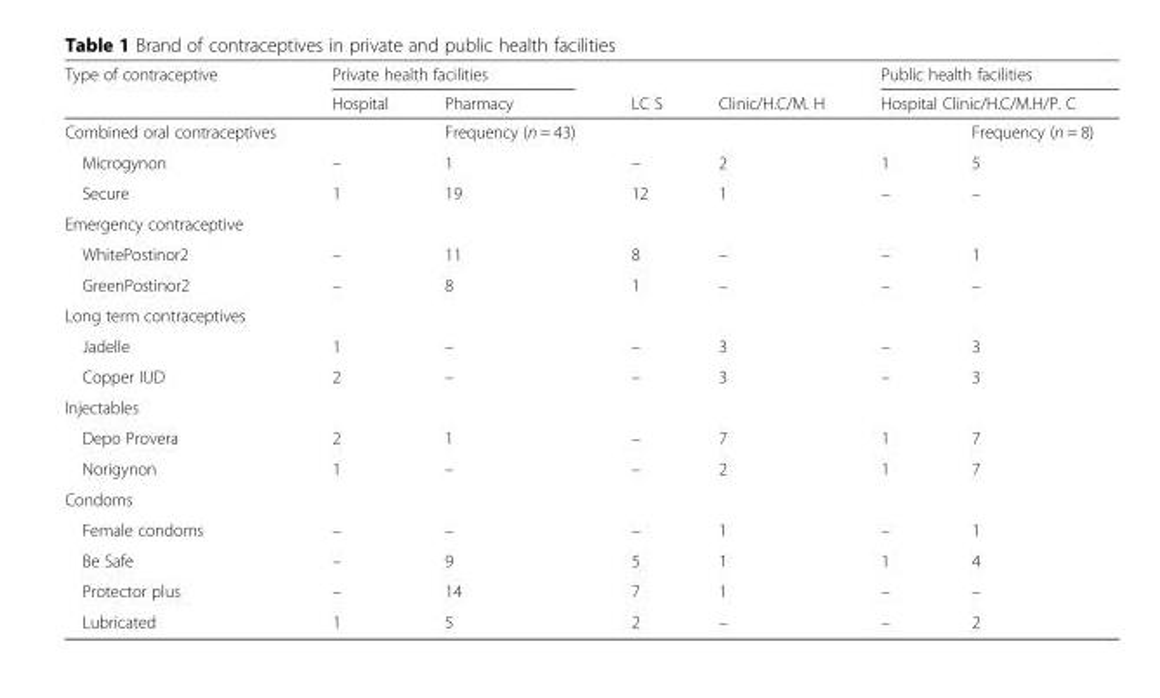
<table><thead><tr><td rowspan="3">Type of contraceptive Combined oral contraceptives</td><td colspan="2">Private health facilities</td><td rowspan="3">LC S</td><td rowspan="3">Clinic/H.C/M. H</td><td rowspan="2" colspan="2">Public health facilities Hospital Clinic/H.C/M.H/P. C</td></tr><tr><td rowspan="2">Hospital</td><td rowspan="2">Pharmacy Frequency (n = 43)</td></tr><tr><td></td><td>Frequency (n = 8)</td></tr></thead><tbody><tr><td>Microgynon</td><td>–</td><td>1</td><td>–</td><td>2</td><td>1</td><td>5</td></tr><tr><td>Secure</td><td>1</td><td>19</td><td>12</td><td>1</td><td>–</td><td>–</td></tr><tr><td colspan="7">Emergency contraceptive</td></tr><tr><td>WhitePostinor2</td><td>–</td><td>11</td><td>8</td><td>–</td><td>–</td><td>1</td></tr><tr><td>GreenPostinor2</td><td>–</td><td>8</td><td>1</td><td>–</td><td>–</td><td>–</td></tr><tr><td colspan="7">Long term contraceptives</td></tr><tr><td>Jadelle</td><td>1</td><td>–</td><td>–</td><td>3</td><td>–</td><td>3</td></tr><tr><td>Copper IUD</td><td>2</td><td>–</td><td>–</td><td>3</td><td>–</td><td>3</td></tr><tr><td colspan="7">Injectables</td></tr><tr><td>Depo Provera</td><td>2</td><td>1</td><td>–</td><td>7</td><td>1</td><td>7</td></tr><tr><td>Norigynon</td><td>1</td><td>–</td><td>–</td><td>2</td><td>1</td><td>7</td></tr><tr><td colspan="7">Condoms</td></tr><tr><td>Female condoms</td><td>–</td><td>–</td><td>–</td><td>1</td><td>–</td><td>1</td></tr><tr><td>Be Safe</td><td>–</td><td>9</td><td>5</td><td>1</td><td>1</td><td>4</td></tr><tr><td>Protector plus</td><td>–</td><td>14</td><td>7</td><td>1</td><td>–</td><td>–</td></tr><tr><td>Lubricated</td><td>1</td><td>5</td><td>2</td><td>–</td><td>–</td><td>2</td></tr></tbody></table>